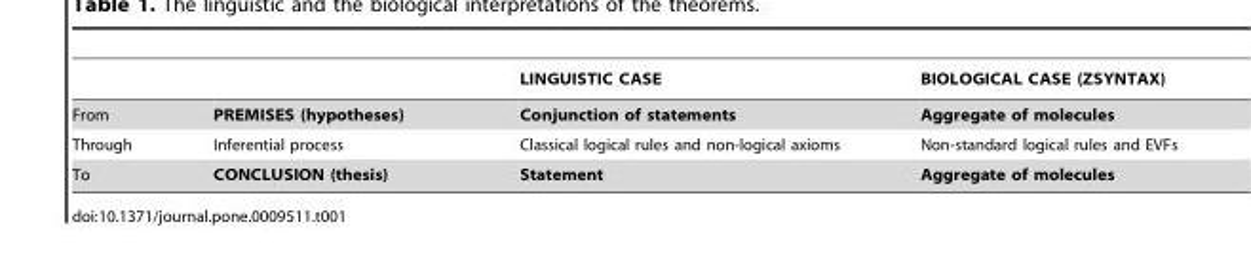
<table><thead><tr><td></td><td></td><td>LINGUISTIC CASE</td><td>BIOLOGICAL CASE (ZSYNTAX)</td></tr></thead><tbody><tr><td>From</td><td>PREMISES (hypotheses)</td><td>Conjunction of statements</td><td>Aggregate of molecules</td></tr><tr><td>Through</td><td>Inferential process</td><td>Classical logical rules and non-logical axioms</td><td>Non-standard logical rules and EVFs</td></tr><tr><td>To</td><td>CONCLUSION (thesis)</td><td>Statement</td><td>Aggregate of molecules</td></tr></tbody></table>